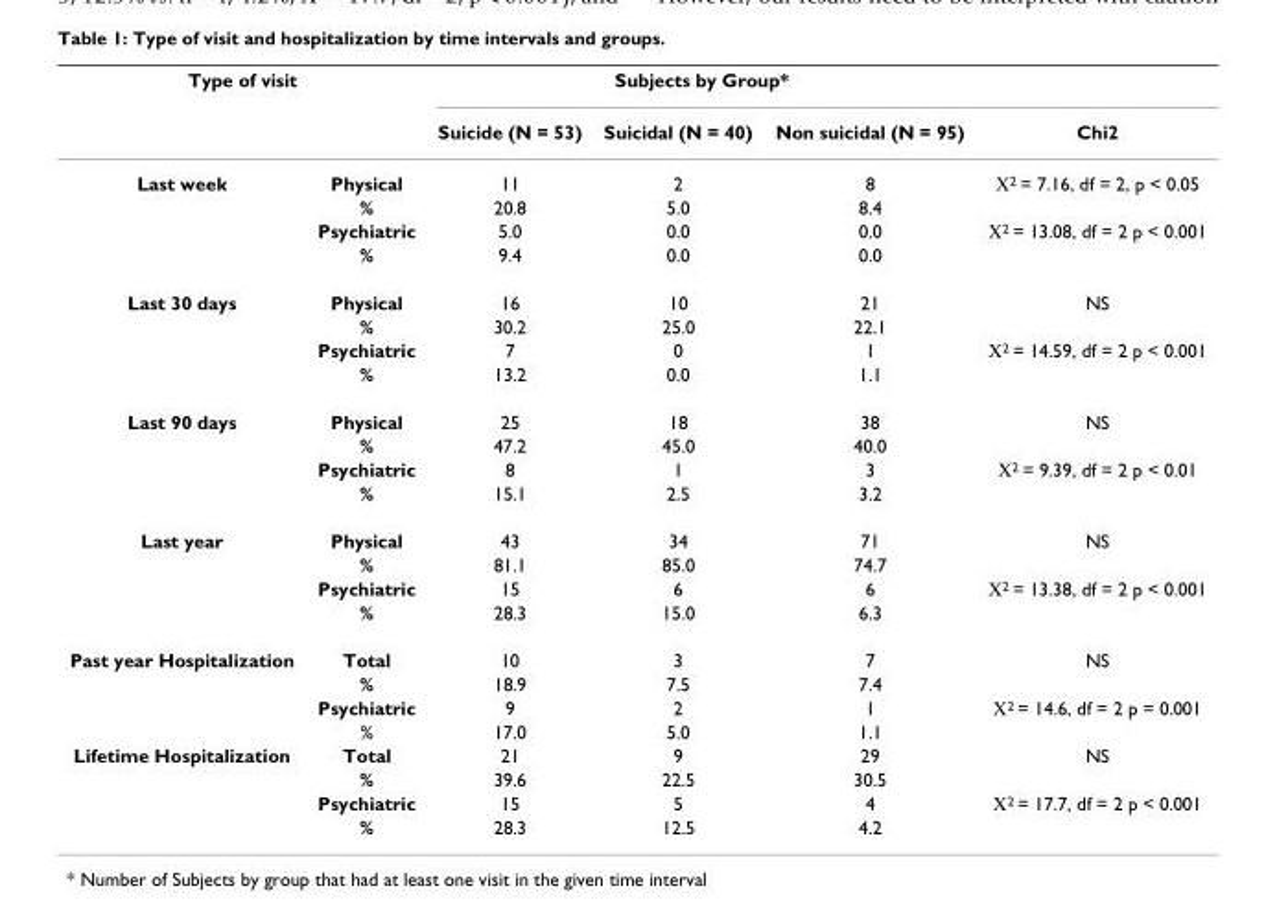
<table><thead><tr><td colspan="2">Type of visit</td><td colspan="3">Subjects by Group*</td><td rowspan="2">Chi2</td></tr><tr><td></td><td></td><td>Suicide (N = 53)</td><td>Suicidal (N = 40)</td><td>Non suicidal (N = 95)</td></tr></thead><tbody><tr><td rowspan="4">Last week</td><td>Physical</td><td>11</td><td>2</td><td>8</td><td>Χ2 = 7.16, df = 2, p &lt; 0.05</td></tr><tr><td>%</td><td>20.8</td><td>5.0</td><td>8.4</td><td></td></tr><tr><td>Psychiatric</td><td>5.0</td><td>0.0</td><td>0.0</td><td>Χ2 = 13.08, df = 2 p &lt; 0.001</td></tr><tr><td>%</td><td>9.4</td><td>0.0</td><td>0.0</td><td></td></tr><tr><td rowspan="4">Last 30 days</td><td>Physical</td><td>16</td><td>10</td><td>21</td><td>NS</td></tr><tr><td>%</td><td>30.2</td><td>25.0</td><td>22.1</td><td></td></tr><tr><td>Psychiatric</td><td>7</td><td>0</td><td>1</td><td>Χ2 = 14.59, df = 2 p &lt; 0.001</td></tr><tr><td>%</td><td>13.2</td><td>0.0</td><td>1.1</td><td></td></tr><tr><td rowspan="4">Last 90 days</td><td>Physical</td><td>25</td><td>18</td><td>38</td><td>NS</td></tr><tr><td>%</td><td>47.2</td><td>45.0</td><td>40.0</td><td></td></tr><tr><td>Psychiatric</td><td>8</td><td>1</td><td>3</td><td>Χ2 = 9.39, df = 2 p &lt; 0.01</td></tr><tr><td>%</td><td>15.1</td><td>2.5</td><td>3.2</td><td></td></tr><tr><td rowspan="4">Last year</td><td>Physical</td><td>43</td><td>34</td><td>71</td><td>NS</td></tr><tr><td>%</td><td>81.1</td><td>85.0</td><td>74.7</td><td></td></tr><tr><td>Psychiatric</td><td>15</td><td>6</td><td>6</td><td>Χ2 = 13.38, df = 2 p &lt; 0.001</td></tr><tr><td>%</td><td>28.3</td><td>15.0</td><td>6.3</td><td></td></tr><tr><td rowspan="4">Past year Hospitalization</td><td>Total</td><td>10</td><td>3</td><td>7</td><td>NS</td></tr><tr><td>%</td><td>18.9</td><td>7.5</td><td>7.4</td><td></td></tr><tr><td>Psychiatric</td><td>9</td><td>2</td><td>1</td><td>Χ2 = 14.6, df = 2 p = 0.001</td></tr><tr><td>%</td><td>17.0</td><td>5.0</td><td>1.1</td><td></td></tr><tr><td rowspan="4">Lifetime Hospitalization</td><td>Total</td><td>21</td><td>9</td><td>29</td><td>NS</td></tr><tr><td>%</td><td>39.6</td><td>22.5</td><td>30.5</td><td></td></tr><tr><td>Psychiatric</td><td>15</td><td>5</td><td>4</td><td>Χ2 = 17.7, df = 2 p &lt; 0.001</td></tr><tr><td>%</td><td>28.3</td><td>12.5</td><td>4.2</td><td></td></tr></tbody></table>